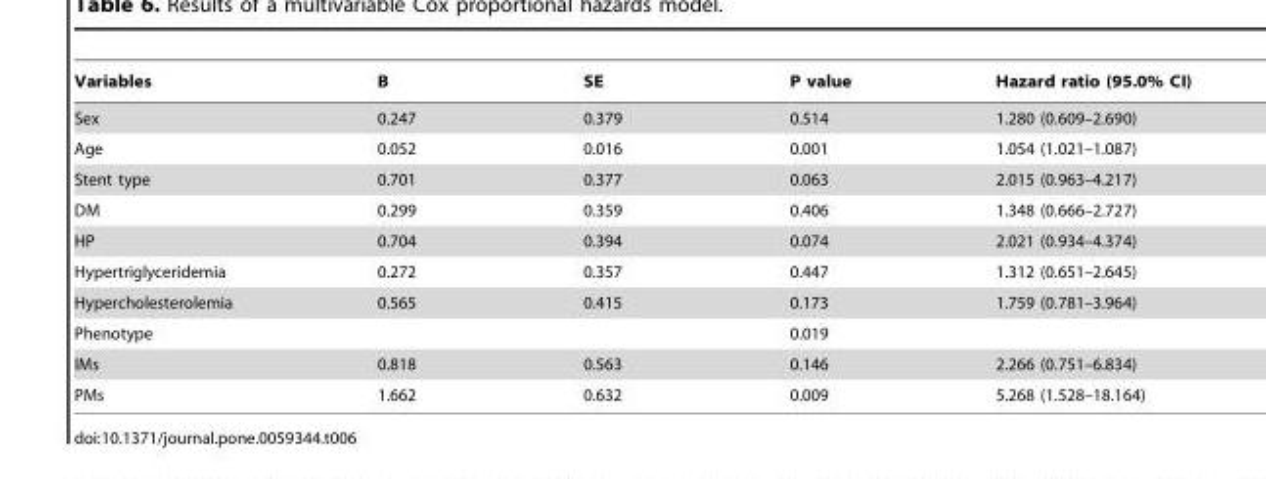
<table><thead><tr><td>Variables</td><td>B</td><td>SE</td><td>P value</td><td>Hazard ratio (95.0% CI)</td></tr></thead><tbody><tr><td>Sex</td><td>0.247</td><td>0.379</td><td>0.514</td><td>1.280 (0.609–2.690)</td></tr><tr><td>Age</td><td>0.052</td><td>0.016</td><td>0.001</td><td>1.054 (1.021–1.087)</td></tr><tr><td>Stent type</td><td>0.701</td><td>0.377</td><td>0.063</td><td>2.015 (0.963–4.217)</td></tr><tr><td>DM</td><td>0.299</td><td>0.359</td><td>0.406</td><td>1.348 (0.666–2.727)</td></tr><tr><td>HP</td><td>0.704</td><td>0.394</td><td>0.074</td><td>2.021 (0.934–4.374)</td></tr><tr><td>Hypertriglyceridemia</td><td>0.272</td><td>0.357</td><td>0.447</td><td>1.312 (0.651–2.645)</td></tr><tr><td>Hypercholesterolemia</td><td>0.565</td><td>0.415</td><td>0.173</td><td>1.759 (0.781–3.964)</td></tr><tr><td>Phenotype</td><td></td><td></td><td>0.019</td><td></td></tr><tr><td>IMs</td><td>0.818</td><td>0.563</td><td>0.146</td><td>2.266 (0.751–6.834)</td></tr><tr><td>PMs</td><td>1.662</td><td>0.632</td><td>0.009</td><td>5.268 (1.528–18.164)</td></tr></tbody></table>